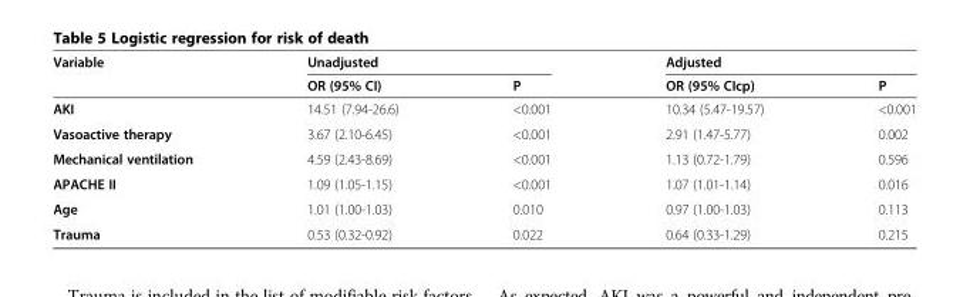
<table><thead><tr><td rowspan="2">Variable</td><td colspan="2">Unadjusted</td><td colspan="2">Adjusted</td></tr><tr><td>OR (95% CI)</td><td>P</td><td>OR (95% CIcp)</td><td>P</td></tr></thead><tbody><tr><td>AKI</td><td>14.51 (7.94-26.6)</td><td>&lt;0.001</td><td>10.34 (5.47-19.57)</td><td>&lt;0.001</td></tr><tr><td>Vasoactive therapy</td><td>3.67 (2.10-6.45)</td><td>&lt;0.001</td><td>2.91 (1.47-5.77)</td><td>0.002</td></tr><tr><td>Mechanical ventilation</td><td>4.59 (2.43-8.69)</td><td>&lt;0.001</td><td>1.13 (0.72-1.79)</td><td>0.596</td></tr><tr><td>APACHE II</td><td>1.09 (1.05-1.15)</td><td>&lt;0.001</td><td>1.07 (1.01-1.14)</td><td>0.016</td></tr><tr><td>Age</td><td>1.01 (1.00-1.03)</td><td>0.010</td><td>0.97 (1.00-1.03)</td><td>0.113</td></tr><tr><td>Trauma</td><td>0.53 (0.32-0.92)</td><td>0.022</td><td>0.64 (0.33-1.29)</td><td>0.215</td></tr></tbody></table>